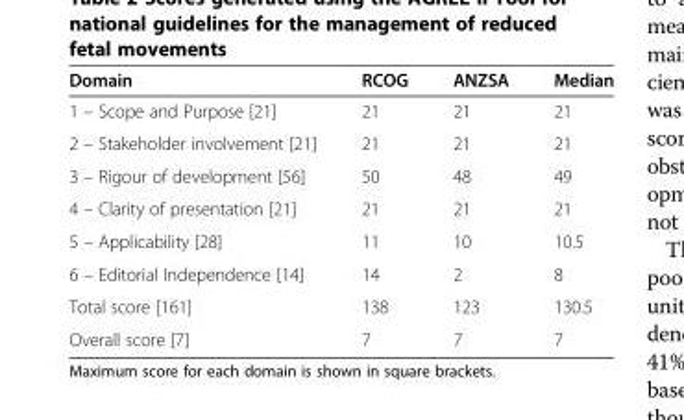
<table><thead><tr><td>Domain</td><td>RCOG</td><td>ANZSA</td><td>Median</td></tr></thead><tbody><tr><td>1 – Scope and Purpose [21]</td><td>21</td><td>21</td><td>21</td></tr><tr><td>2 – Stakeholder involvement [21]</td><td>21</td><td>21</td><td>21</td></tr><tr><td>3 – Rigour of development [56]</td><td>50</td><td>48</td><td>49</td></tr><tr><td>4 – Clarity of presentation [21]</td><td>21</td><td>21</td><td>21</td></tr><tr><td>5 – Applicability [28]</td><td>11</td><td>10</td><td>10.5</td></tr><tr><td>6 – Editorial Independence [14]</td><td>14</td><td>2</td><td>8</td></tr><tr><td>Total score [161]</td><td>138</td><td>123</td><td>130.5</td></tr><tr><td>Overall score [7]</td><td>7</td><td>7</td><td>7</td></tr></tbody></table>